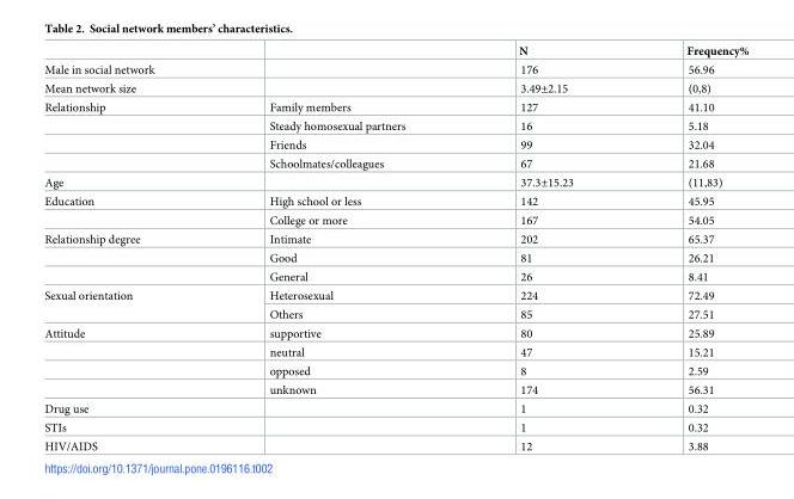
<table><thead><tr><td></td><td></td><td>N</td><td>Frequency%</td></tr></thead><tbody><tr><td>Male in social network</td><td></td><td>176</td><td>56.96</td></tr><tr><td>Mean network size</td><td></td><td>3.49±2.15</td><td>(0,8)</td></tr><tr><td rowspan="4">Relationship</td><td>Family members</td><td>127</td><td>41.10</td></tr><tr><td>Steady homosexual partners</td><td>16</td><td>5.18</td></tr><tr><td>Friends</td><td>99</td><td>32.04</td></tr><tr><td>Schoolmates/colleagues</td><td>67</td><td>21.68</td></tr><tr><td>Age</td><td></td><td>37.3±15.23</td><td>(11,83)</td></tr><tr><td rowspan="2">Education</td><td>High school or less</td><td>142</td><td>45.95</td></tr><tr><td>College or more</td><td>167</td><td>54.05</td></tr><tr><td rowspan="3">Relationship degree</td><td>Intimate</td><td>202</td><td>65.37</td></tr><tr><td>Good</td><td>81</td><td>26.21</td></tr><tr><td>General</td><td>26</td><td>8.41</td></tr><tr><td rowspan="2">Sexual orientation</td><td>Heterosexual</td><td>224</td><td>72.49</td></tr><tr><td>Others</td><td>85</td><td>27.51</td></tr><tr><td rowspan="4">Attitude</td><td>supportive</td><td>80</td><td>25.89</td></tr><tr><td>neutral</td><td>47</td><td>15.21</td></tr><tr><td>opposed</td><td>8</td><td>2.59</td></tr><tr><td>unknown</td><td>174</td><td>56.31</td></tr><tr><td>Drug use</td><td></td><td>1</td><td>0.32</td></tr><tr><td>STIs</td><td></td><td>1</td><td>0.32</td></tr><tr><td>HIV/AIDS</td><td></td><td>12</td><td>3.88</td></tr></tbody></table>